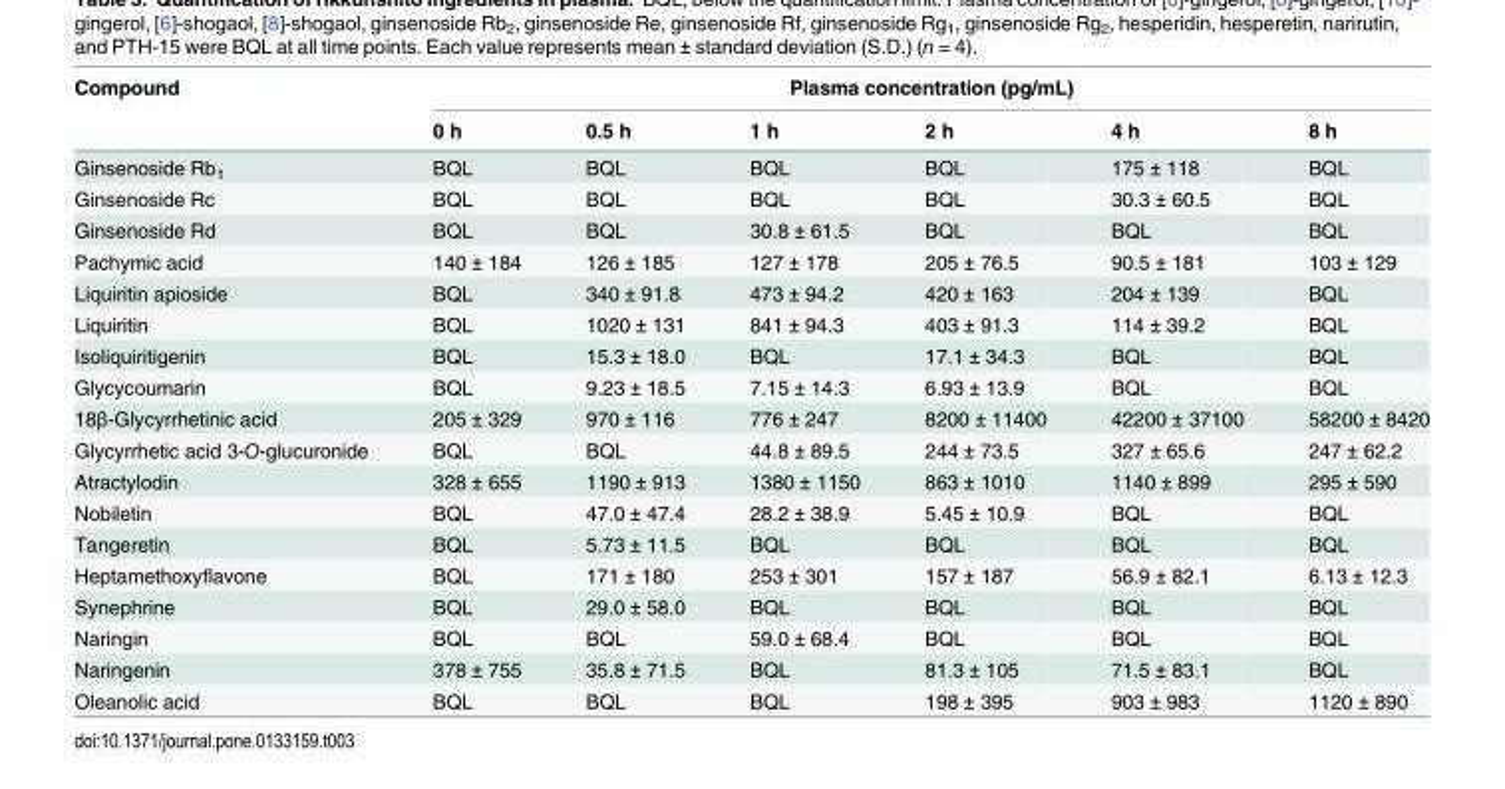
<table><thead><tr><td rowspan="2">Compound</td><td colspan="6">Plasma concentration (pg/mL)</td></tr><tr><td>0 h</td><td>0.5 h</td><td>1 h</td><td>2 h</td><td>4 h</td><td>8 h</td></tr></thead><tbody><tr><td>Ginsenoside Rb<sub>1</sub></td><td>BQL</td><td>BQL</td><td>BQL</td><td>BQL</td><td>175 ± 118</td><td>BQL</td></tr><tr><td>Ginsenoside Rc</td><td>BQL</td><td>BQL</td><td>BQL</td><td>BQL</td><td>30.3 ± 60.5</td><td>BQL</td></tr><tr><td>Ginsenoside Rd</td><td>BQL</td><td>BQL</td><td>30.8 ± 61.5</td><td>BQL</td><td>BQL</td><td>BQL</td></tr><tr><td>Pachymic acid</td><td>140 ± 184</td><td>126 ± 185</td><td>127 ± 178</td><td>205 ± 76.5</td><td>90.5 ± 181</td><td>103 ± 129</td></tr><tr><td>Liquiritin apioside</td><td>BQL</td><td>340 ± 91.8</td><td>473 ± 94.2</td><td>420 ± 163</td><td>204 ± 139</td><td>BQL</td></tr><tr><td>Liquiritin</td><td>BQL</td><td>1020 ± 131</td><td>841 ± 94.3</td><td>403 ± 91.3</td><td>114 ± 39.2</td><td>BQL</td></tr><tr><td>Isoliquiritigenin</td><td>BQL</td><td>15.3 ± 18.0</td><td>BQL</td><td>17.1 ± 34.3</td><td>BQL</td><td>BQL</td></tr><tr><td>Glycycoumarin</td><td>BQL</td><td>9.23 ± 18.5</td><td>7.15 ± 14.3</td><td>6.93 ± 13.9</td><td>BQL</td><td>BQL</td></tr><tr><td>18β-Glycyrrhetinic acid</td><td>205 ± 329</td><td>970 ± 116</td><td>776 ± 247</td><td>8200 ± 11400</td><td>42200 ± 37100</td><td>58200 ± 8420</td></tr><tr><td>Glycyrrhetic acid 3-O-glucuronide</td><td>BQL</td><td>BQL</td><td>44.8 ± 89.5</td><td>244 ± 73.5</td><td>327 ± 65.6</td><td>247 ± 62.2</td></tr><tr><td>Atractylodin</td><td>328 ± 655</td><td>1190 ± 913</td><td>1380 ± 1150</td><td>863 ± 1010</td><td>1140 ± 899</td><td>295 ± 590</td></tr><tr><td>Nobiletin</td><td>BQL</td><td>47.0 ± 47.4</td><td>28.2 ± 38.9</td><td>5.45 ± 10.9</td><td>BQL</td><td>BQL</td></tr><tr><td>Tangeretin</td><td>BQL</td><td>5.73 ± 11.5</td><td>BQL</td><td>BQL</td><td>BQL</td><td>BQL</td></tr><tr><td>Heptamethoxyflavone</td><td>BQL</td><td>171 ± 180</td><td>253 ± 301</td><td>157 ± 187</td><td>56.9 ± 82.1</td><td>6.13 ± 12.3</td></tr><tr><td>Synephrine</td><td>BQL</td><td>29.0 ± 58.0</td><td>BQL</td><td>BQL</td><td>BQL</td><td>BQL</td></tr><tr><td>Naringin</td><td>BQL</td><td>BQL</td><td>59.0 ± 68.4</td><td>BQL</td><td>BQL</td><td>BQL</td></tr><tr><td>Naringenin</td><td>378 ± 755</td><td>35.8 ± 71.5</td><td>BQL</td><td>81.3 ± 105</td><td>71.5 ± 83.1</td><td>BQL</td></tr><tr><td>Oleanolic acid</td><td>BQL</td><td>BQL</td><td>BQL</td><td>198 ± 395</td><td>903 ± 983</td><td>1120 ± 890</td></tr></tbody></table>